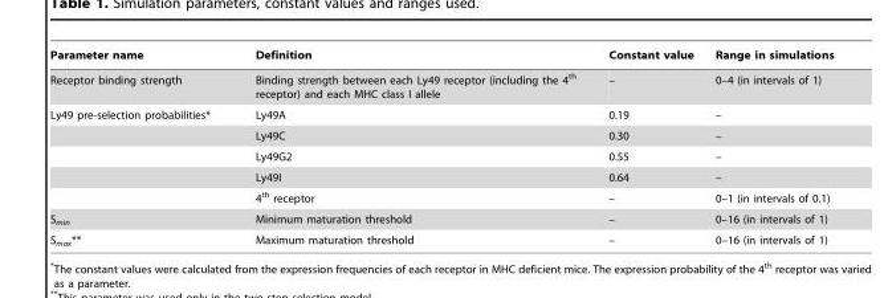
<table><thead><tr><td>Parameter name</td><td>Definition</td><td>Constant value</td><td>Range in simulations</td></tr></thead><tbody><tr><td>Receptor binding strength</td><td>Binding strength between each Ly49 receptor (including the 4<sup>th</sup> receptor) and each MHC class I allele</td><td>–</td><td>0–4 (in intervals of 1)</td></tr><tr><td rowspan="5">Ly49 pre-selection probabilities*</td><td>Ly49A</td><td>0.19</td><td>–</td></tr><tr><td>Ly49C</td><td>0.30</td><td>–</td></tr><tr><td>Ly49G2</td><td>0.55</td><td>–</td></tr><tr><td>Ly49I</td><td>0.64</td><td>–</td></tr><tr><td>4<sup>th</sup> receptor</td><td>–</td><td>0–1 (in intervals of 0.1)</td></tr><tr><td>S<sub>min</sub></td><td>Minimum maturation threshold</td><td>–</td><td>0–16 (in intervals of 1)</td></tr><tr><td>S<sub>max</sub>**</td><td>Maximum maturation threshold</td><td>–</td><td>0–16 (in intervals of 1)</td></tr></tbody></table>